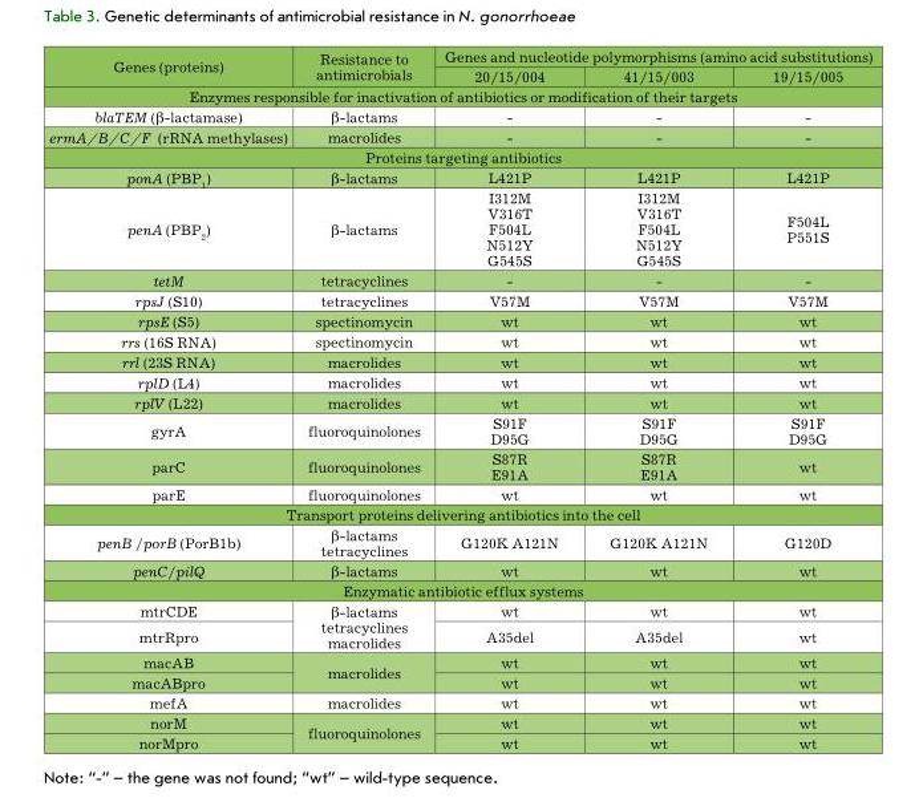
<table><thead><tr><td rowspan="2">Genes (proteins)</td><td rowspan="2">Resistance to antimicrobials</td><td colspan="3">Genes and nucleotide polymorphisms (amino acid substitutions)</td></tr><tr><td>20/15/004</td><td>41/15/003</td><td>19/15/005</td></tr></thead><tbody><tr><td colspan="5">Enzymes responsible for inactivation of antibiotics or modification of their targets</td></tr><tr><td>blaTEM (β-lactamase)</td><td>β-lactams</td><td>-</td><td>-</td><td>-</td></tr><tr><td>ermA/B/C/F (rRNA methylases)</td><td>macrolides</td><td>-</td><td>-</td><td>-</td></tr><tr><td colspan="5">Proteins targeting antibiotics</td></tr><tr><td>ponA (PBP<sub>1</sub>)</td><td>β-lactams</td><td>L421P</td><td>L421P</td><td>L421P</td></tr><tr><td>penA (PBP<sub>2</sub>)</td><td>β-lactams</td><td>I312M V316T F504L N512Y G545S</td><td>I312M V316T F504L N512Y G545S</td><td>F504L P551S</td></tr><tr><td>tetM</td><td>tetracyclines</td><td>-</td><td>-</td><td>-</td></tr><tr><td>rpsJ (S10)</td><td>tetracyclines</td><td>V57M</td><td>V57M</td><td>V57M</td></tr><tr><td>rpsE (S5)</td><td>spectinomycin</td><td>wt</td><td>wt</td><td>wt</td></tr><tr><td>rrs (16S RNA)</td><td>spectinomycin</td><td>wt</td><td>wt</td><td>wt</td></tr><tr><td>rrl (23S RNA)</td><td>macrolides</td><td>wt</td><td>wt</td><td>wt</td></tr><tr><td>rplD (L4)</td><td>macrolides</td><td>wt</td><td>wt</td><td>wt</td></tr><tr><td>rplV (L22)</td><td>macrolides</td><td>wt</td><td>wt</td><td>wt</td></tr><tr><td>gyrA</td><td>fluoroquinolones</td><td>S91F D95G</td><td>S91F D95G</td><td>S91F D95G</td></tr><tr><td>parC</td><td>fluoroquinolones</td><td>S87R E91A</td><td>S87R E91A</td><td>wt</td></tr><tr><td>parE</td><td>fluoroquinolones</td><td>wt</td><td>wt</td><td>wt</td></tr><tr><td colspan="5">Transport proteins delivering antibiotics into the cell</td></tr><tr><td>penB /porB (PorB1b)</td><td>β-lactams tetracyclines</td><td>G120K A121N</td><td>G120K A121N</td><td>G120D</td></tr><tr><td>penC/pilQ</td><td>β-lactams</td><td>wt</td><td>wt</td><td>wt</td></tr><tr><td colspan="5">Enzymatic antibiotic efflux systems</td></tr><tr><td>mtrCDE</td><td rowspan="2">β-lactams tetracyclines macrolides</td><td>wt</td><td>wt</td><td>wt</td></tr><tr><td>mtrRpro</td><td>A35del</td><td>A35del</td><td>wt</td></tr><tr><td>macAB</td><td rowspan="2">macrolides</td><td>wt</td><td>wt</td><td>wt</td></tr><tr><td>macABpro</td><td>wt</td><td>wt</td><td>wt</td></tr><tr><td>mefA</td><td>macrolides</td><td>wt</td><td>wt</td><td>wt</td></tr><tr><td>norM</td><td rowspan="2">fluoroquinolones</td><td>wt</td><td>wt</td><td>wt</td></tr><tr><td>norMpro</td><td>wt</td><td>wt</td><td>wt</td></tr></tbody></table>